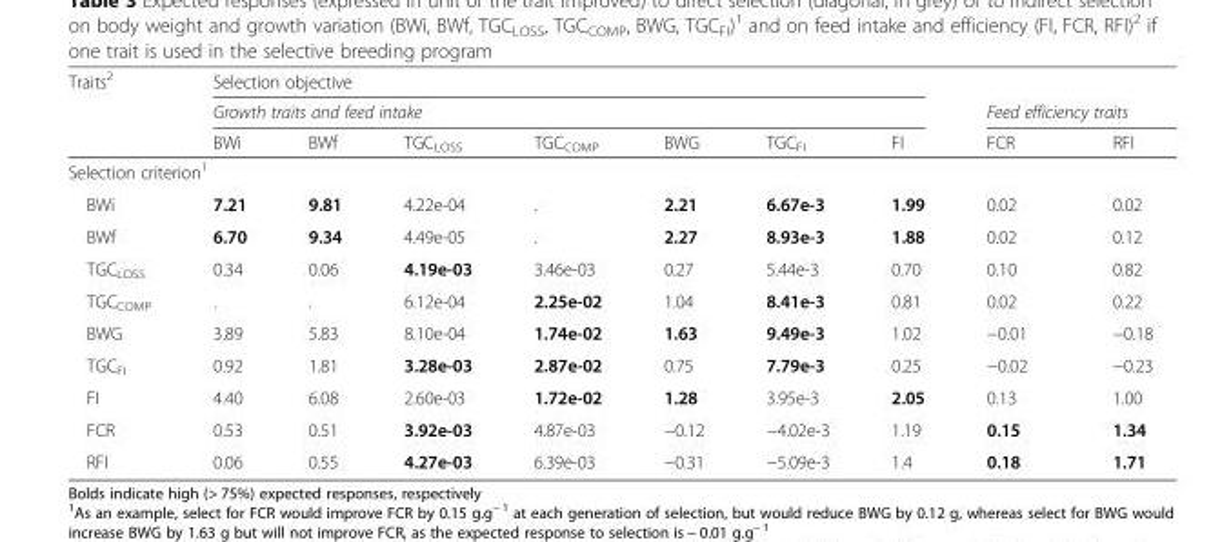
<table><thead><tr><td rowspan="3">Traits<sup>2</sup></td><td rowspan="2" colspan="7">Selection objective Growth traits and feed intake</td><td></td><td></td></tr><tr><td colspan="2">Feed efficiency traits</td></tr><tr><td>BWi</td><td>BWf</td><td>TGC<sub>LOSS</sub></td><td>TGC<sub>COMP</sub></td><td>BWG</td><td>TGC<sub>FI</sub></td><td>FI</td><td>FCR</td><td>RFI</td></tr></thead><tbody><tr><td colspan="10">Selection criterion<sup>1</sup></td></tr><tr><td>BWi</td><td>7.21</td><td>9.81</td><td>4.22e-04</td><td>.</td><td>2.21</td><td>6.67e-3</td><td>1.99</td><td>0.02</td><td>0.02</td></tr><tr><td>BWf</td><td>6.70</td><td>9.34</td><td>4.49e-05</td><td>.</td><td>2.27</td><td>8.93e-3</td><td>1.88</td><td>0.02</td><td>0.12</td></tr><tr><td>TGC<sub>LOSS</sub></td><td>0.34</td><td>0.06</td><td>4.19e-03</td><td>3.46e-03</td><td>0.27</td><td>5.44e-3</td><td>0.70</td><td>0.10</td><td>0.82</td></tr><tr><td>TGC<sub>COMP</sub></td><td>.</td><td>.</td><td>6.12e-04</td><td>2.25e-02</td><td>1.04</td><td>8.41e-3</td><td>0.81</td><td>0.02</td><td>0.22</td></tr><tr><td>BWG</td><td>3.89</td><td>5.83</td><td>8.10e-04</td><td>1.74e-02</td><td>1.63</td><td>9.49e-3</td><td>1.02</td><td>−0.01</td><td>−0.18</td></tr><tr><td>TGC<sub>FI</sub></td><td>0.92</td><td>1.81</td><td>3.28e-03</td><td>2.87e-02</td><td>0.75</td><td>7.79e-3</td><td>0.25</td><td>−0.02</td><td>−0.23</td></tr><tr><td>FI</td><td>4.40</td><td>6.08</td><td>2.60e-03</td><td>1.72e-02</td><td>1.28</td><td>3.95e-3</td><td>2.05</td><td>0.13</td><td>1.00</td></tr><tr><td>FCR</td><td>0.53</td><td>0.51</td><td>3.92e-03</td><td>4.87e-03</td><td>−0.12</td><td>−4.02e-3</td><td>1.19</td><td>0.15</td><td>1.34</td></tr><tr><td>RFI</td><td>0.06</td><td>0.55</td><td>4.27e-03</td><td>6.39e-03</td><td>−0.31</td><td>−5.09e-3</td><td>1.4</td><td>0.18</td><td>1.71</td></tr></tbody></table>